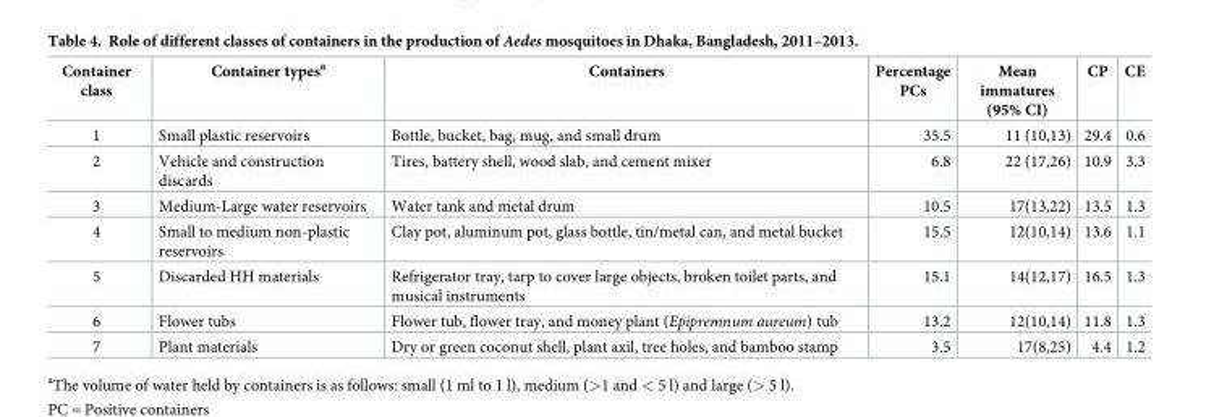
<table><thead><tr><td>Container class</td><td>Container types<sup>a</sup></td><td>Containers</td><td>Percentage PCs</td><td>Mean immatures (95% CI)</td><td>CP</td><td>CE</td></tr></thead><tbody><tr><td>1</td><td>Small plastic reservoirs</td><td>Bottle, bucket, bag, mug, and small drum</td><td>35.5</td><td>11 (10,13)</td><td>29.4</td><td>0.6</td></tr><tr><td>2</td><td>Vehicle and construction discards</td><td>Tires, battery shell, wood slab, and cement mixer</td><td>6.8</td><td>22 (17,26)</td><td>10.9</td><td>3.3</td></tr><tr><td>3</td><td>Medium-Large water reservoirs</td><td>Water tank and metal drum</td><td>10.5</td><td>17(13,22)</td><td>13.5</td><td>1.3</td></tr><tr><td>4</td><td>Small to medium non-plastic reservoirs</td><td>Clay pot, aluminum pot, glass bottle, tin/metal can, and metal bucket</td><td>15.5</td><td>12(10,14)</td><td>13.6</td><td>1.1</td></tr><tr><td>5</td><td>Discarded HH materials</td><td>Refrigerator tray, tarp to cover large objects, broken toilet parts, and musical instruments</td><td>15.1</td><td>14(12,17)</td><td>16.5</td><td>1.3</td></tr><tr><td>6</td><td>Flower tubs</td><td>Flower tub, flower tray, and money plant (Epipremnum aureum) tub</td><td>13.2</td><td>12(10,14)</td><td>11.8</td><td>1.3</td></tr><tr><td>7</td><td>Plant materials</td><td>Dry or green coconut shell, plant axil, tree holes, and bamboo stamp</td><td>3.5</td><td>17(8,25)</td><td>4.4</td><td>1.2</td></tr></tbody></table>